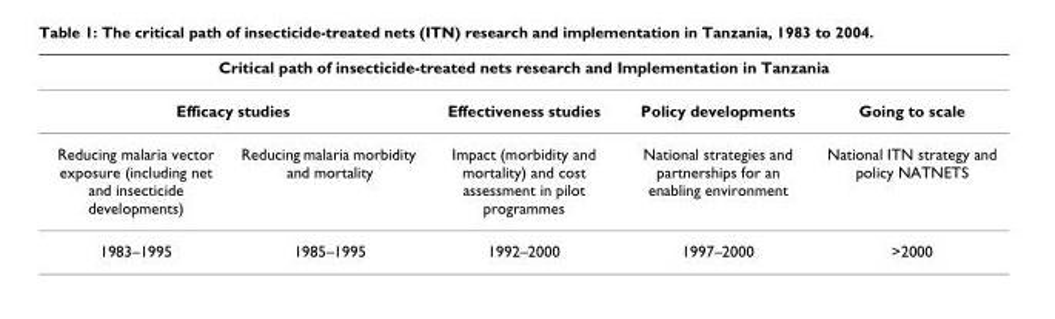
<table><thead><tr><td colspan="5">Critical path of insecticide-treated nets research and Implementation in Tanzania</td></tr><tr><td colspan="2">Efficacy studies</td><td rowspan="2">Effectiveness studies Impact (morbidity and mortality) and cost assessment in pilot programmes</td><td rowspan="2">Policy developments National strategies and partnerships for an enabling environment</td><td rowspan="2">Going to scale National ITN strategy and policy NATNETS</td></tr><tr><td>Reducing malaria vector exposure (including net and insecticide developments)</td><td>Reducing malaria morbidity and mortality</td></tr></thead><tbody><tr><td>1983–1995</td><td>1985–1995</td><td>1992–2000</td><td>1997–2000</td><td>&gt;2000</td></tr></tbody></table>